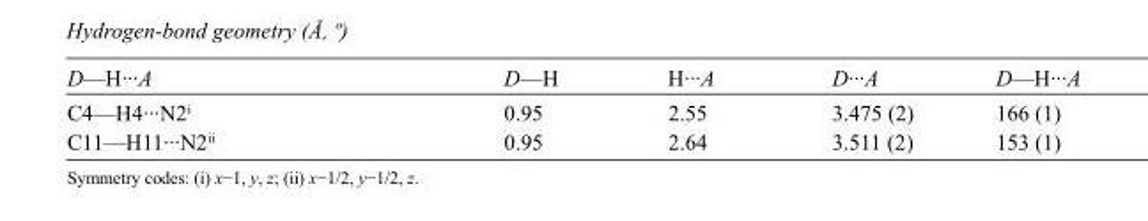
<table><tbody><tr><td>D—H···A</td><td>D—H</td><td>H···A</td><td>D···A</td><td>D—H···A</td></tr><tr><td>C4—H4···N2<sup>i</sup></td><td>0.95</td><td>2.55</td><td>3.475 (2)</td><td>166 (1)</td></tr><tr><td>C11—H11···N2<sup>ii</sup></td><td>0.95</td><td>2.64</td><td>3.511 (2)</td><td>153 (1)</td></tr></tbody></table>